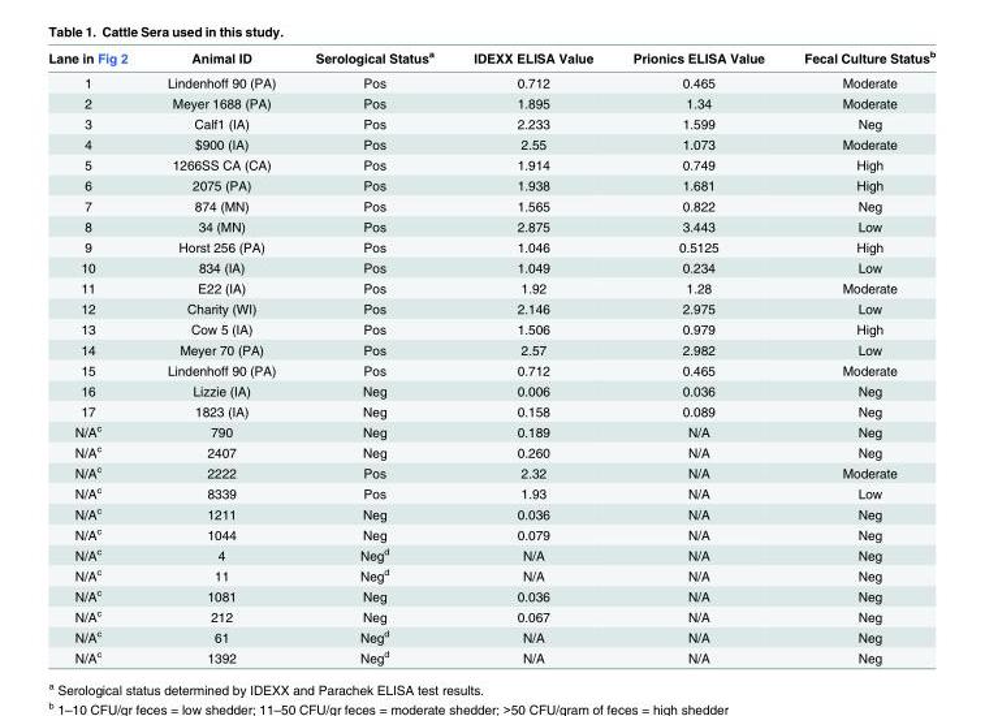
<table><thead><tr><td>Lane in Fig 2</td><td>Animal ID</td><td>Serological Status<sup>a</sup></td><td>IDEXX ELISA Value</td><td>Prionics ELISA Value</td><td>Fecal Culture Status<sup>b</sup></td></tr></thead><tbody><tr><td>1</td><td>Lindenhoff 90 (PA)</td><td>Pos</td><td>0.712</td><td>0.465</td><td>Moderate</td></tr><tr><td>2</td><td>Meyer 1688 (PA)</td><td>Pos</td><td>1.895</td><td>1.34</td><td>Moderate</td></tr><tr><td>3</td><td>Calf1 (IA)</td><td>Pos</td><td>2.233</td><td>1.599</td><td>Neg</td></tr><tr><td>4</td><td>$900 (IA)</td><td>Pos</td><td>2.55</td><td>1.073</td><td>Moderate</td></tr><tr><td>5</td><td>1266SS CA (CA)</td><td>Pos</td><td>1.914</td><td>0.749</td><td>High</td></tr><tr><td>6</td><td>2075 (PA)</td><td>Pos</td><td>1.938</td><td>1.681</td><td>High</td></tr><tr><td>7</td><td>874 (MN)</td><td>Pos</td><td>1.565</td><td>0.822</td><td>Neg</td></tr><tr><td>8</td><td>34 (MN)</td><td>Pos</td><td>2.875</td><td>3.443</td><td>Low</td></tr><tr><td>9</td><td>Horst 256 (PA)</td><td>Pos</td><td>1.046</td><td>0.5125</td><td>High</td></tr><tr><td>10</td><td>834 (IA)</td><td>Pos</td><td>1.049</td><td>0.234</td><td>Low</td></tr><tr><td>11</td><td>E22 (IA)</td><td>Pos</td><td>1.92</td><td>1.28</td><td>Moderate</td></tr><tr><td>12</td><td>Charity (WI)</td><td>Pos</td><td>2.146</td><td>2.975</td><td>Low</td></tr><tr><td>13</td><td>Cow 5 (IA)</td><td>Pos</td><td>1.506</td><td>0.979</td><td>High</td></tr><tr><td>14</td><td>Meyer 70 (PA)</td><td>Pos</td><td>2.57</td><td>2.982</td><td>Low</td></tr><tr><td>15</td><td>Lindenhoff 90 (PA)</td><td>Pos</td><td>0.712</td><td>0.465</td><td>Moderate</td></tr><tr><td>16</td><td>Lizzie (IA)</td><td>Neg</td><td>0.006</td><td>0.036</td><td>Neg</td></tr><tr><td>17</td><td>1823 (IA)</td><td>Neg</td><td>0.158</td><td>0.089</td><td>Neg</td></tr><tr><td>N/A<sup>c</sup></td><td>790</td><td>Neg</td><td>0.189</td><td>N/A</td><td>Neg</td></tr><tr><td>N/A<sup>c</sup></td><td>2407</td><td>Neg</td><td>0.260</td><td>N/A</td><td>Neg</td></tr><tr><td>N/A<sup>c</sup></td><td>2222</td><td>Pos</td><td>2.32</td><td>N/A</td><td>Moderate</td></tr><tr><td>N/A<sup>c</sup></td><td>8339</td><td>Pos</td><td>1.93</td><td>N/A</td><td>Low</td></tr><tr><td>N/A<sup>c</sup></td><td>1211</td><td>Neg</td><td>0.036</td><td>N/A</td><td>Neg</td></tr><tr><td>N/A<sup>c</sup></td><td>1044</td><td>Neg</td><td>0.079</td><td>N/A</td><td>Neg</td></tr><tr><td>N/A<sup>c</sup></td><td>4</td><td>Neg<sup>d</sup></td><td>N/A</td><td>N/A</td><td>Neg</td></tr><tr><td>N/A<sup>c</sup></td><td>11</td><td>Neg<sup>d</sup></td><td>N/A</td><td>N/A</td><td>Neg</td></tr><tr><td>N/A<sup>c</sup></td><td>1081</td><td>Neg</td><td>0.036</td><td>N/A</td><td>Neg</td></tr><tr><td>N/A<sup>c</sup></td><td>212</td><td>Neg</td><td>0.067</td><td>N/A</td><td>Neg</td></tr><tr><td>N/A<sup>c</sup></td><td>61</td><td>Neg<sup>d</sup></td><td>N/A</td><td>N/A</td><td>Neg</td></tr><tr><td>N/A<sup>c</sup></td><td>1392</td><td>Neg<sup>d</sup></td><td>N/A</td><td>N/A</td><td>Neg</td></tr></tbody></table>